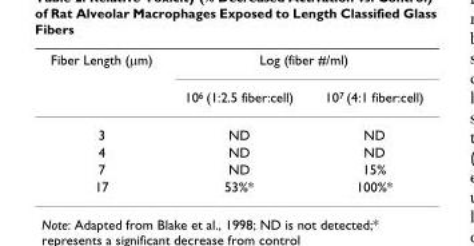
<table><thead><tr><td rowspan="2">Fiber Length (µm)</td><td colspan="2">Log (fiber #/ml)</td></tr><tr><td>10<sup>6</sup> (1:2.5 fiber:cell)</td><td>10<sup>7</sup> (4:1 fiber:cell)</td></tr></thead><tbody><tr><td>3</td><td>ND</td><td>ND</td></tr><tr><td>4</td><td>ND</td><td>ND</td></tr><tr><td>7</td><td>ND</td><td>15%</td></tr><tr><td>17</td><td>53%*</td><td>100%*</td></tr></tbody></table>